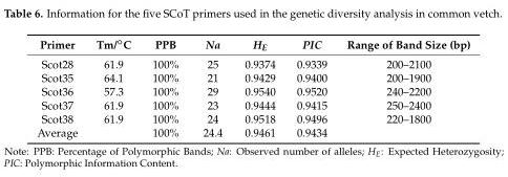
<table><thead><tr><td>Primer</td><td>Tm/◦C</td><td>PPB</td><td>Na</td><td>H<sub>E</sub></td><td>PIC</td><td>Range of Band Size (bp)</td></tr></thead><tbody><tr><td>Scot28</td><td>61.9</td><td>100%</td><td>25</td><td>0.9374</td><td>0.9339</td><td>200–2100</td></tr><tr><td>Scot35</td><td>64.1</td><td>100%</td><td>21</td><td>0.9429</td><td>0.9400</td><td>200–1900</td></tr><tr><td>Scot36</td><td>57.3</td><td>100%</td><td>29</td><td>0.9540</td><td>0.9520</td><td>240–2200</td></tr><tr><td>Scot37</td><td>61.9</td><td>100%</td><td>23</td><td>0.9444</td><td>0.9415</td><td>250–2400</td></tr><tr><td>Scot38</td><td>61.9</td><td>100%</td><td>24</td><td>0.9518</td><td>0.9496</td><td>220–1800</td></tr><tr><td>Average</td><td></td><td>100%</td><td>24.4</td><td>0.9461</td><td>0.9434</td><td></td></tr></tbody></table>